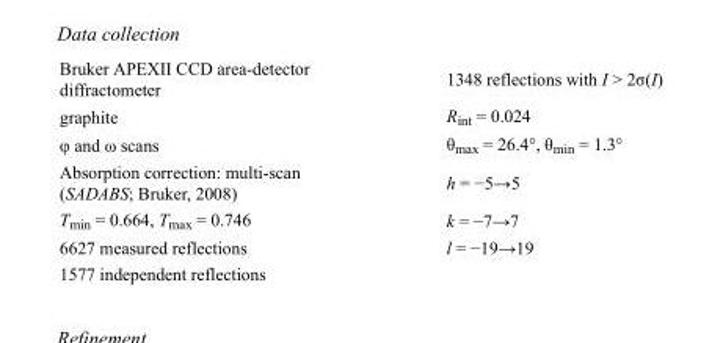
<table><tbody><tr><td>Bruker APEXII CCD area-detector diffractometer</td><td>1348 reflections with I &gt; 2σ(I)</td></tr><tr><td>graphite</td><td>R<sub>int</sub> = 0.024</td></tr><tr><td>φ and ω scans</td><td>θ<sub>max</sub> = 26.4°, θ<sub>min</sub> = 1.3°</td></tr><tr><td>Absorption correction: multi-scan (SADABS; Bruker, 2008)</td><td>h = −5→5</td></tr><tr><td>T<sub>min</sub> = 0.664, T<sub>max</sub> = 0.746</td><td>k = −7→7</td></tr><tr><td>6627 measured reflections</td><td>l = −19→19</td></tr><tr><td>1577 independent reflections</td><td></td></tr></tbody></table>